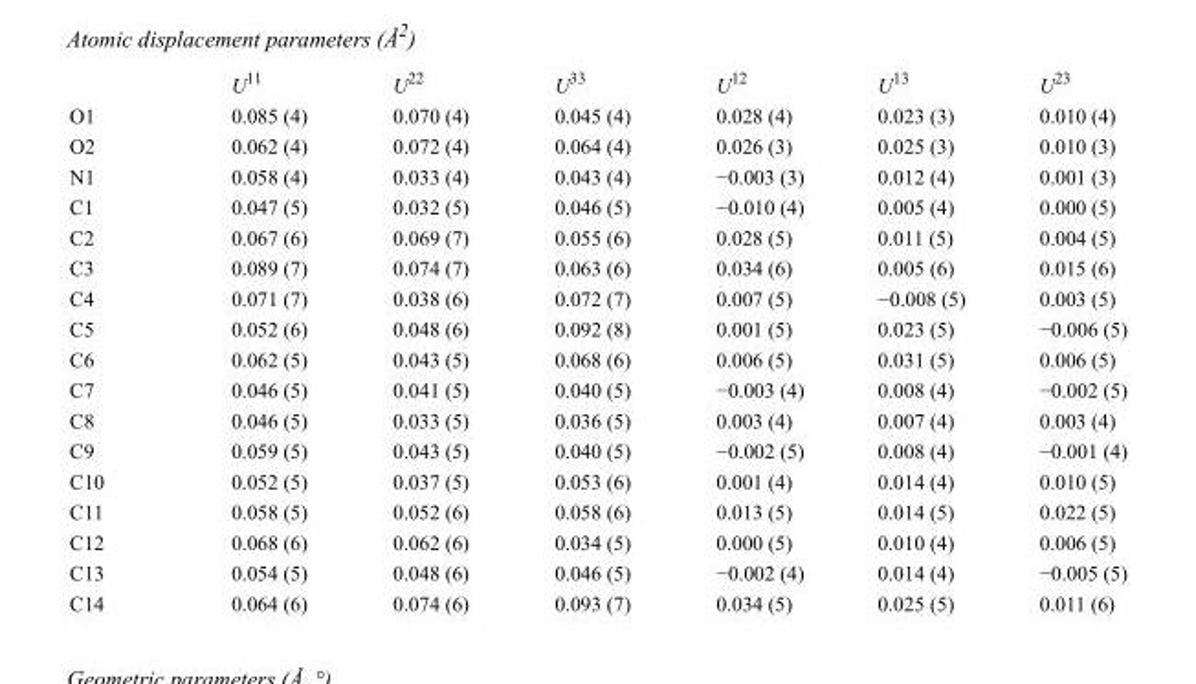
<table><thead><tr><td></td><td>U<sup>11</sup></td><td>U<sup>22</sup></td><td>U<sup>33</sup></td><td>U<sup>12</sup></td><td>U<sup>13</sup></td><td>U<sup>23</sup></td></tr></thead><tbody><tr><td>O1</td><td>0.085 (4)</td><td>0.070 (4)</td><td>0.045 (4)</td><td>0.028 (4)</td><td>0.023 (3)</td><td>0.010 (4)</td></tr><tr><td>O2</td><td>0.062 (4)</td><td>0.072 (4)</td><td>0.064 (4)</td><td>0.026 (3)</td><td>0.025 (3)</td><td>0.010 (3)</td></tr><tr><td>N1</td><td>0.058 (4)</td><td>0.033 (4)</td><td>0.043 (4)</td><td>−0.003 (3)</td><td>0.012 (4)</td><td>0.001 (3)</td></tr><tr><td>C1</td><td>0.047 (5)</td><td>0.032 (5)</td><td>0.046 (5)</td><td>−0.010 (4)</td><td>0.005 (4)</td><td>0.000 (5)</td></tr><tr><td>C2</td><td>0.067 (6)</td><td>0.069 (7)</td><td>0.055 (6)</td><td>0.028 (5)</td><td>0.011 (5)</td><td>0.004 (5)</td></tr><tr><td>C3</td><td>0.089 (7)</td><td>0.074 (7)</td><td>0.063 (6)</td><td>0.034 (6)</td><td>0.005 (6)</td><td>0.015 (6)</td></tr><tr><td>C4</td><td>0.071 (7)</td><td>0.038 (6)</td><td>0.072 (7)</td><td>0.007 (5)</td><td>−0.008 (5)</td><td>0.003 (5)</td></tr><tr><td>C5</td><td>0.052 (6)</td><td>0.048 (6)</td><td>0.092 (8)</td><td>0.001 (5)</td><td>0.023 (5)</td><td>−0.006 (5)</td></tr><tr><td>C6</td><td>0.062 (5)</td><td>0.043 (5)</td><td>0.068 (6)</td><td>0.006 (5)</td><td>0.031 (5)</td><td>0.006 (5)</td></tr><tr><td>C7</td><td>0.046 (5)</td><td>0.041 (5)</td><td>0.040 (5)</td><td>−0.003 (4)</td><td>0.008 (4)</td><td>−0.002 (5)</td></tr><tr><td>C8</td><td>0.046 (5)</td><td>0.033 (5)</td><td>0.036 (5)</td><td>0.003 (4)</td><td>0.007 (4)</td><td>0.003 (4)</td></tr><tr><td>C9</td><td>0.059 (5)</td><td>0.043 (5)</td><td>0.040 (5)</td><td>−0.002 (5)</td><td>0.008 (4)</td><td>−0.001 (4)</td></tr><tr><td>C10</td><td>0.052 (5)</td><td>0.037 (5)</td><td>0.053 (6)</td><td>0.001 (4)</td><td>0.014 (4)</td><td>0.010 (5)</td></tr><tr><td>C11</td><td>0.058 (5)</td><td>0.052 (6)</td><td>0.058 (6)</td><td>0.013 (5)</td><td>0.014 (5)</td><td>0.022 (5)</td></tr><tr><td>C12</td><td>0.068 (6)</td><td>0.062 (6)</td><td>0.034 (5)</td><td>0.000 (5)</td><td>0.010 (4)</td><td>0.006 (5)</td></tr><tr><td>C13</td><td>0.054 (5)</td><td>0.048 (6)</td><td>0.046 (5)</td><td>−0.002 (4)</td><td>0.014 (4)</td><td>−0.005 (5)</td></tr><tr><td>C14</td><td>0.064 (6)</td><td>0.074 (6)</td><td>0.093 (7)</td><td>0.034 (5)</td><td>0.025 (5)</td><td>0.011 (6)</td></tr></tbody></table>